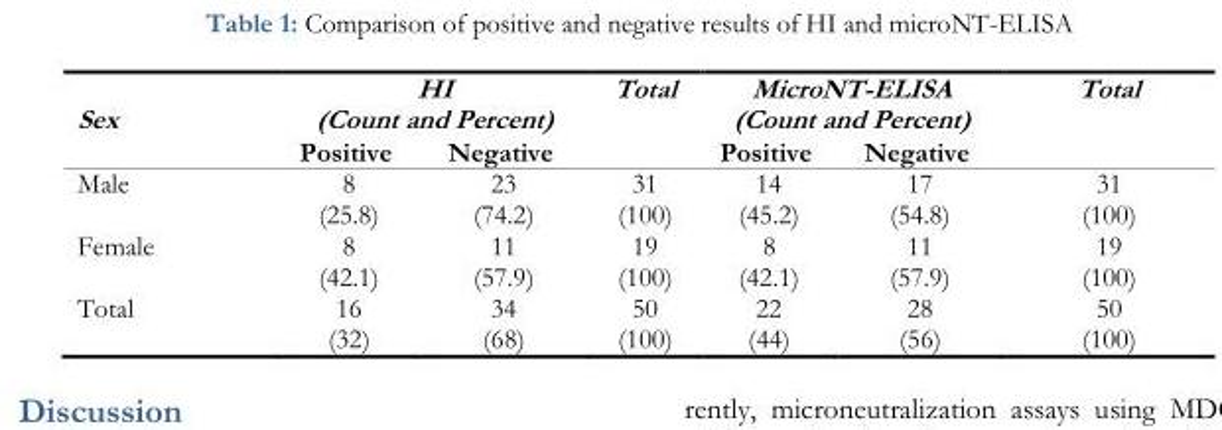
<table><thead><tr><td rowspan="2">Sex</td><td colspan="2">HI (Count and Percent)</td><td rowspan="2">Total</td><td colspan="2">MicroNT-ELISA (Count and Percent)</td><td rowspan="2">Total</td></tr><tr><td>Positive</td><td>Negative</td><td>Positive</td><td>Negative</td></tr></thead><tbody><tr><td>Male</td><td>8 (25.8)</td><td>23 (74.2)</td><td>31 (100)</td><td>14 (45.2)</td><td>17 (54.8)</td><td>31 (100)</td></tr><tr><td>Female</td><td>8 (42.1)</td><td>11 (57.9)</td><td>19 (100)</td><td>8 (42.1)</td><td>11 (57.9)</td><td>19 (100)</td></tr><tr><td>Total</td><td>16 (32)</td><td>34 (68)</td><td>50 (100)</td><td>22 (44)</td><td>28 (56)</td><td>50 (100)</td></tr></tbody></table>